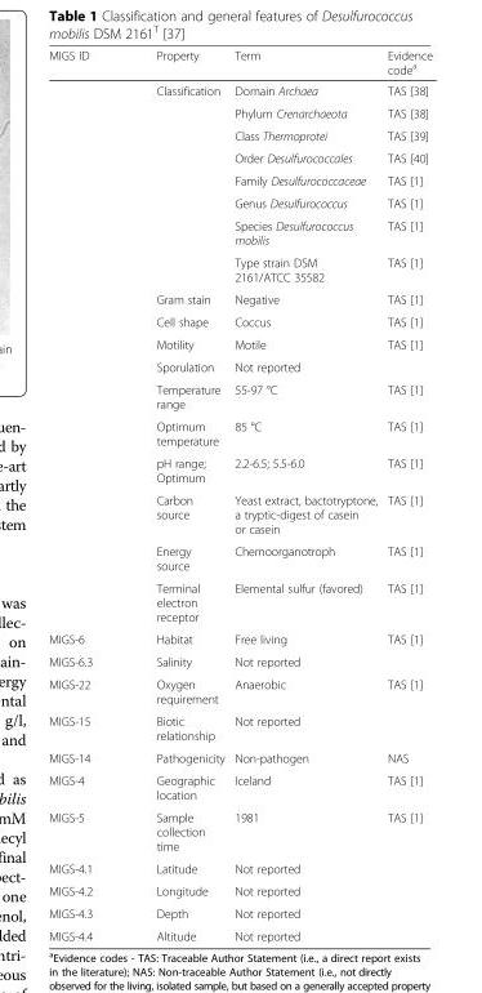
<table><thead><tr><td>MIGS ID</td><td>Property</td><td>Term</td><td>Evidence code<sup>a</sup></td></tr></thead><tbody><tr><td></td><td>Classification</td><td>Domain Archaea</td><td>TAS [38]</td></tr><tr><td></td><td></td><td>Phylum Crenarchaeota</td><td>TAS [38]</td></tr><tr><td></td><td></td><td>Class Thermoprotei</td><td>TAS [39]</td></tr><tr><td></td><td></td><td>Order Desulfurococcales</td><td>TAS [40]</td></tr><tr><td></td><td></td><td>Family Desulfurococcaceae</td><td>TAS [1]</td></tr><tr><td></td><td></td><td>Genus Desulfurococcus</td><td>TAS [1]</td></tr><tr><td></td><td></td><td>Species Desulfurococcus mobilis</td><td>TAS [1]</td></tr><tr><td></td><td></td><td>Type strain DSM 2161/ATCC 35582</td><td>TAS [1]</td></tr><tr><td></td><td>Gram stain</td><td>Negative</td><td>TAS [1]</td></tr><tr><td></td><td>Cell shape</td><td>Coccus</td><td>TAS [1]</td></tr><tr><td></td><td>Motility</td><td>Motile</td><td>TAS [1]</td></tr><tr><td></td><td>Sporulation</td><td>Not reported</td><td></td></tr><tr><td></td><td>Temperature range</td><td>55-97 °C</td><td>TAS [1]</td></tr><tr><td></td><td>Optimum temperature</td><td>85 °C</td><td>TAS [1]</td></tr><tr><td></td><td>pH range; Optimum</td><td>2.2-6.5; 5.5-6.0</td><td>TAS [1]</td></tr><tr><td></td><td>Carbon source</td><td>Yeast extract, bactotryptone, a tryptic-digest of casein or casein</td><td>TAS [1]</td></tr><tr><td></td><td>Energy source</td><td>Chemoorganotroph</td><td>TAS [1]</td></tr><tr><td></td><td>Terminal electron receptor</td><td>Elemental sulfur (favored)</td><td>TAS [1]</td></tr><tr><td>MIGS-6</td><td>Habitat</td><td>Free living</td><td>TAS [1]</td></tr><tr><td>MIGS-6.3</td><td>Salinity</td><td>Not reported</td><td></td></tr><tr><td>MIGS-22</td><td>Oxygen requirement</td><td>Anaerobic</td><td>TAS [1]</td></tr><tr><td>MIGS-15</td><td>Biotic relationship</td><td>Not reported</td><td></td></tr><tr><td>MIGS-14</td><td>Pathogenicity</td><td>Non-pathogen</td><td>NAS</td></tr><tr><td>MIGS-4</td><td>Geographic location</td><td>Iceland</td><td>TAS [1]</td></tr><tr><td>MIGS-5</td><td>Sample collection time</td><td>1981</td><td>TAS [1]</td></tr><tr><td>MIGS-4.1</td><td>Latitude</td><td>Not reported</td><td></td></tr><tr><td>MIGS-4.2</td><td>Longitude</td><td>Not reported</td><td></td></tr><tr><td>MIGS-4.3</td><td>Depth</td><td>Not reported</td><td></td></tr><tr><td>MIGS-4.4</td><td>Altitude</td><td>Not reported</td><td></td></tr></tbody></table>